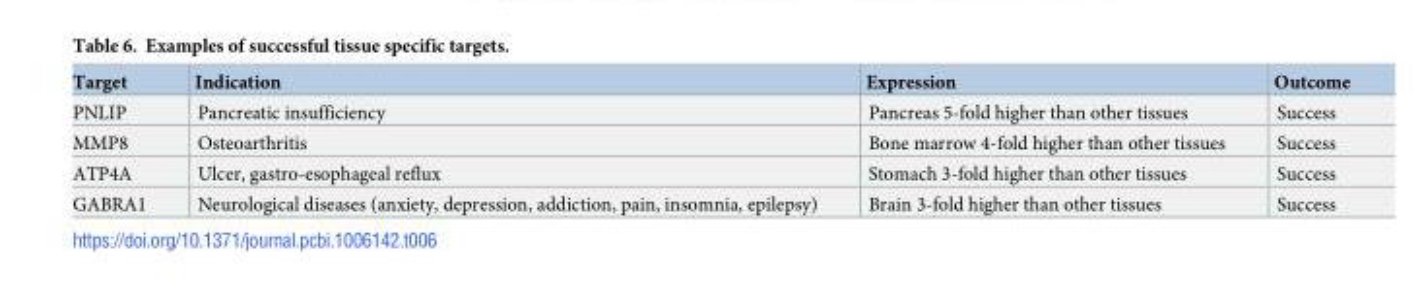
<table><thead><tr><td>Target</td><td>Indication</td><td>Expression</td><td>Outcome</td></tr></thead><tbody><tr><td>PNLIP</td><td>Pancreatic insufficiency</td><td>Pancreas 5-fold higher than other tissues</td><td>Success</td></tr><tr><td>MMP8</td><td>Osteoarthritis</td><td>Bone marrow 4-fold higher than other tissues</td><td>Success</td></tr><tr><td>ATP4A</td><td>Ulcer, gastro-esophageal reflux</td><td>Stomach 3-fold higher than other tissues</td><td>Success</td></tr><tr><td>GABRA1</td><td>Neurological diseases (anxiety, depression, addiction, pain, insomnia, epilepsy)</td><td>Brain 3-fold higher than other tissues</td><td>Success</td></tr></tbody></table>